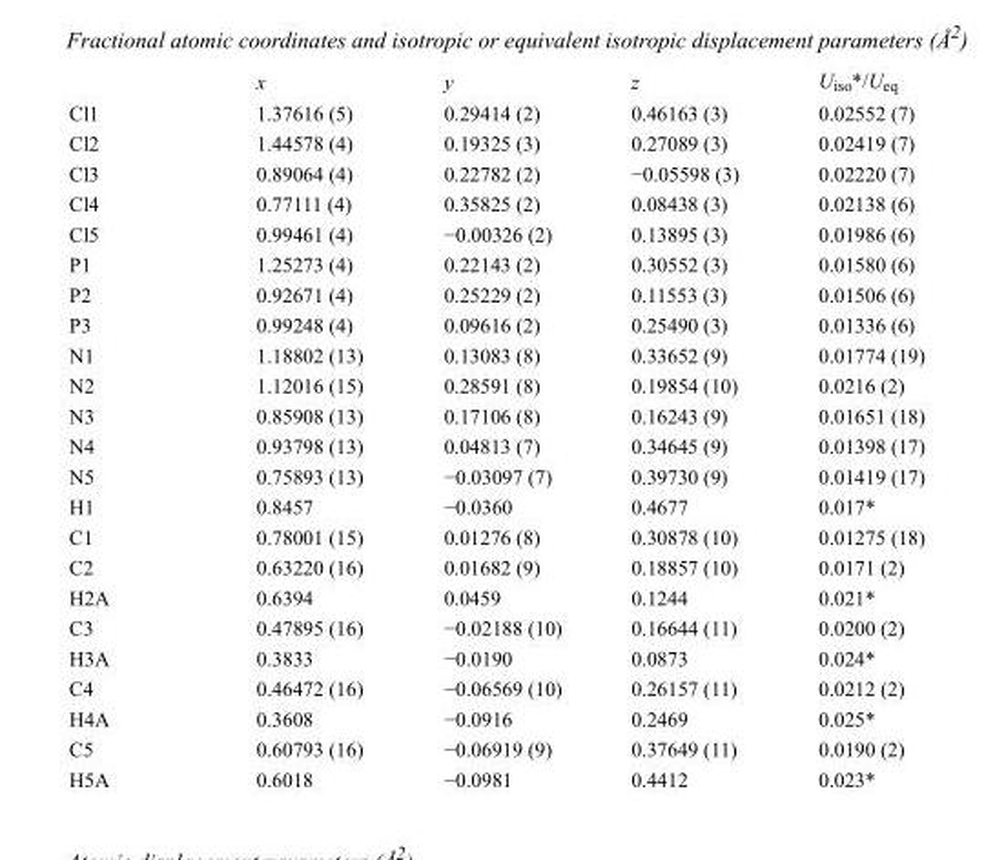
<table><thead><tr><td></td><td>x</td><td>y</td><td>z</td><td>U<sub>iso</sub>*/U<sub>eq</sub></td></tr></thead><tbody><tr><td>Cl1</td><td>1.37616 (5)</td><td>0.29414 (2)</td><td>0.46163 (3)</td><td>0.02552 (7)</td></tr><tr><td>Cl2</td><td>1.44578 (4)</td><td>0.19325 (3)</td><td>0.27089 (3)</td><td>0.02419 (7)</td></tr><tr><td>Cl3</td><td>0.89064 (4)</td><td>0.22782 (2)</td><td>−0.05598 (3)</td><td>0.02220 (7)</td></tr><tr><td>Cl4</td><td>0.77111 (4)</td><td>0.35825 (2)</td><td>0.08438 (3)</td><td>0.02138 (6)</td></tr><tr><td>Cl5</td><td>0.99461 (4)</td><td>−0.00326 (2)</td><td>0.13895 (3)</td><td>0.01986 (6)</td></tr><tr><td>P1</td><td>1.25273 (4)</td><td>0.22143 (2)</td><td>0.30552 (3)</td><td>0.01580 (6)</td></tr><tr><td>P2</td><td>0.92671 (4)</td><td>0.25229 (2)</td><td>0.11553 (3)</td><td>0.01506 (6)</td></tr><tr><td>P3</td><td>0.99248 (4)</td><td>0.09616 (2)</td><td>0.25490 (3)</td><td>0.01336 (6)</td></tr><tr><td>N1</td><td>1.18802 (13)</td><td>0.13083 (8)</td><td>0.33652 (9)</td><td>0.01774 (19)</td></tr><tr><td>N2</td><td>1.12016 (15)</td><td>0.28591 (8)</td><td>0.19854 (10)</td><td>0.0216 (2)</td></tr><tr><td>N3</td><td>0.85908 (13)</td><td>0.17106 (8)</td><td>0.16243 (9)</td><td>0.01651 (18)</td></tr><tr><td>N4</td><td>0.93798 (13)</td><td>0.04813 (7)</td><td>0.34645 (9)</td><td>0.01398 (17)</td></tr><tr><td>N5</td><td>0.75893 (13)</td><td>−0.03097 (7)</td><td>0.39730 (9)</td><td>0.01419 (17)</td></tr><tr><td>H1</td><td>0.8457</td><td>−0.0360</td><td>0.4677</td><td>0.017*</td></tr><tr><td>C1</td><td>0.78001 (15)</td><td>0.01276 (8)</td><td>0.30878 (10)</td><td>0.01275 (18)</td></tr><tr><td>C2</td><td>0.63220 (16)</td><td>0.01682 (9)</td><td>0.18857 (10)</td><td>0.0171 (2)</td></tr><tr><td>H2A</td><td>0.6394</td><td>0.0459</td><td>0.1244</td><td>0.021*</td></tr><tr><td>C3</td><td>0.47895 (16)</td><td>−0.02188 (10)</td><td>0.16644 (11)</td><td>0.0200 (2)</td></tr><tr><td>H3A</td><td>0.3833</td><td>−0.0190</td><td>0.0873</td><td>0.024*</td></tr><tr><td>C4</td><td>0.46472 (16)</td><td>−0.06569 (10)</td><td>0.26157 (11)</td><td>0.0212 (2)</td></tr><tr><td>H4A</td><td>0.3608</td><td>−0.0916</td><td>0.2469</td><td>0.025*</td></tr><tr><td>C5</td><td>0.60793 (16)</td><td>−0.06919 (9)</td><td>0.37649 (11)</td><td>0.0190 (2)</td></tr><tr><td>H5A</td><td>0.6018</td><td>−0.0981</td><td>0.4412</td><td>0.023*</td></tr></tbody></table>